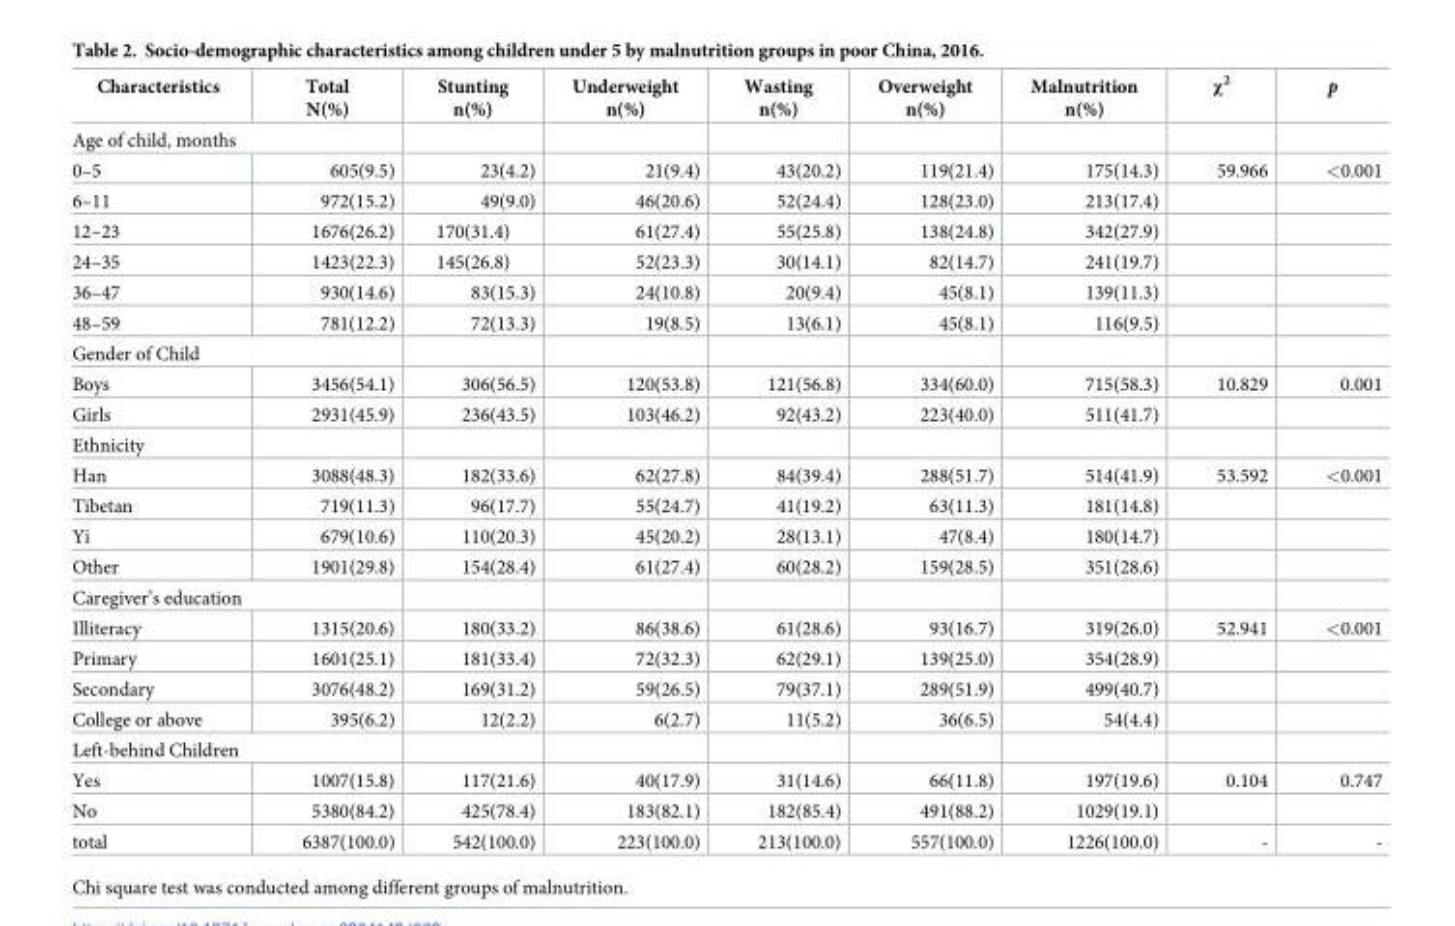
<table><thead><tr><td>Characteristics</td><td>Total N(%)</td><td>Stunting n(%)</td><td>Underweight n(%)</td><td>Wasting n(%)</td><td>Overweight n(%)</td><td>Malnutrition n(%)</td><td>χ<sup>2</sup></td><td>p</td></tr></thead><tbody><tr><td colspan="9">Age of child, months</td></tr><tr><td>0–5</td><td>605(9.5)</td><td>23(4.2)</td><td>21(9.4)</td><td>43(20.2)</td><td>119(21.4)</td><td>175(14.3)</td><td>59.966</td><td>&lt;0.001</td></tr><tr><td>6–11</td><td>972(15.2)</td><td>49(9.0)</td><td>46(20.6)</td><td>52(24.4)</td><td>128(23.0)</td><td>213(17.4)</td><td></td><td></td></tr><tr><td>12–23</td><td>1676(26.2)</td><td>170(31.4)</td><td>61(27.4)</td><td>55(25.8)</td><td>138(24.8)</td><td>342(27.9)</td><td></td><td></td></tr><tr><td>24–35</td><td>1423(22.3)</td><td>145(26.8)</td><td>52(23.3)</td><td>30(14.1)</td><td>82(14.7)</td><td>241(19.7)</td><td></td><td></td></tr><tr><td>36–47</td><td>930(14.6)</td><td>83(15.3)</td><td>24(10.8)</td><td>20(9.4)</td><td>45(8.1)</td><td>139(11.3)</td><td></td><td></td></tr><tr><td>48–59</td><td>781(12.2)</td><td>72(13.3)</td><td>19(8.5)</td><td>13(6.1)</td><td>45(8.1)</td><td>116(9.5)</td><td></td><td></td></tr><tr><td colspan="9">Gender of Child</td></tr><tr><td>Boys</td><td>3456(54.1)</td><td>306(56.5)</td><td>120(53.8)</td><td>121(56.8)</td><td>334(60.0)</td><td>715(58.3)</td><td>10.829</td><td>0.001</td></tr><tr><td>Girls</td><td>2931(45.9)</td><td>236(43.5)</td><td>103(46.2)</td><td>92(43.2)</td><td>223(40.0)</td><td>511(41.7)</td><td></td><td></td></tr><tr><td colspan="9">Ethnicity</td></tr><tr><td>Han</td><td>3088(48.3)</td><td>182(33.6)</td><td>62(27.8)</td><td>84(39.4)</td><td>288(51.7)</td><td>514(41.9)</td><td>53.592</td><td>&lt;0.001</td></tr><tr><td>Tibetan</td><td>719(11.3)</td><td>96(17.7)</td><td>55(24.7)</td><td>41(19.2)</td><td>63(11.3)</td><td>181(14.8)</td><td></td><td></td></tr><tr><td>Yi</td><td>679(10.6)</td><td>110(20.3)</td><td>45(20.2)</td><td>28(13.1)</td><td>47(8.4)</td><td>180(14.7)</td><td></td><td></td></tr><tr><td>Other</td><td>1901(29.8)</td><td>154(28.4)</td><td>61(27.4)</td><td>60(28.2)</td><td>159(28.5)</td><td>351(28.6)</td><td></td><td></td></tr><tr><td colspan="9">Caregiver’s education</td></tr><tr><td>Illiteracy</td><td>1315(20.6)</td><td>180(33.2)</td><td>86(38.6)</td><td>61(28.6)</td><td>93(16.7)</td><td>319(26.0)</td><td>52.941</td><td>&lt;0.001</td></tr><tr><td>Primary</td><td>1601(25.1)</td><td>181(33.4)</td><td>72(32.3)</td><td>62(29.1)</td><td>139(25.0)</td><td>354(28.9)</td><td></td><td></td></tr><tr><td>Secondary</td><td>3076(48.2)</td><td>169(31.2)</td><td>59(26.5)</td><td>79(37.1)</td><td>289(51.9)</td><td>499(40.7)</td><td></td><td></td></tr><tr><td>College or above</td><td>395(6.2)</td><td>12(2.2)</td><td>6(2.7)</td><td>11(5.2)</td><td>36(6.5)</td><td>54(4.4)</td><td></td><td></td></tr><tr><td colspan="9">Left-behind Children</td></tr><tr><td>Yes</td><td>1007(15.8)</td><td>117(21.6)</td><td>40(17.9)</td><td>31(14.6)</td><td>66(11.8)</td><td>197(19.6)</td><td>0.104</td><td>0.747</td></tr><tr><td>No</td><td>5380(84.2)</td><td>425(78.4)</td><td>183(82.1)</td><td>182(85.4)</td><td>491(88.2)</td><td>1029(19.1)</td><td></td><td></td></tr><tr><td>total</td><td>6387(100.0)</td><td>542(100.0)</td><td>223(100.0)</td><td>213(100.0)</td><td>557(100.0)</td><td>1226(100.0)</td><td>-</td><td>-</td></tr></tbody></table>